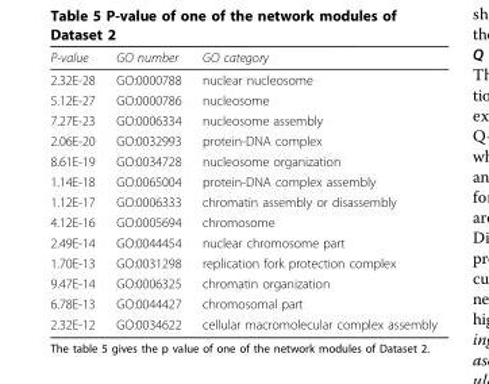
<table><thead><tr><td>P-value</td><td>GO number</td><td>GO category</td></tr></thead><tbody><tr><td>2.32E-28</td><td>GO:0000788</td><td>nuclear nucleosome</td></tr><tr><td>5.12E-27</td><td>GO:0000786</td><td>nucleosome</td></tr><tr><td>7.27E-23</td><td>GO:0006334</td><td>nucleosome assembly</td></tr><tr><td>2.06E-20</td><td>GO:0032993</td><td>protein-DNA complex</td></tr><tr><td>8.61E-19</td><td>GO:0034728</td><td>nucleosome organization</td></tr><tr><td>1.14E-18</td><td>GO:0065004</td><td>protein-DNA complex assembly</td></tr><tr><td>1.12E-17</td><td>GO:0006333</td><td>chromatin assembly or disassembly</td></tr><tr><td>4.12E-16</td><td>GO:0005694</td><td>chromosome</td></tr><tr><td>2.49E-14</td><td>GO:0044454</td><td>nuclear chromosome part</td></tr><tr><td>1.70E-13</td><td>GO:0031298</td><td>replication fork protection complex</td></tr><tr><td>9.47E-14</td><td>GO:0006325</td><td>chromatin organization</td></tr><tr><td>6.78E-13</td><td>GO:0044427</td><td>chromosomal part</td></tr><tr><td>2.32E-12</td><td>GO:0034622</td><td>cellular macromolecular complex assembly</td></tr></tbody></table>